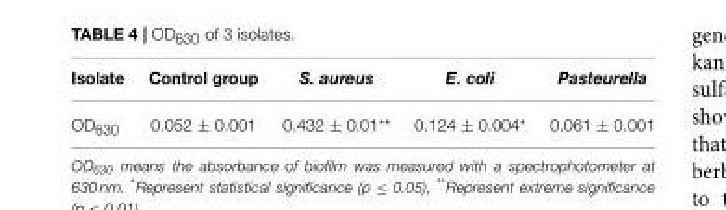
<table><thead><tr><td>Isolate</td><td>Control group</td><td>S. aureus</td><td>E. coli</td><td>Pasteurella</td></tr></thead><tbody><tr><td>OD<sub>630</sub></td><td>0.052 ± 0.001</td><td>0.432 ± 0.01**</td><td>0.124 ± 0.004*</td><td>0.061 ± 0.001</td></tr></tbody></table>